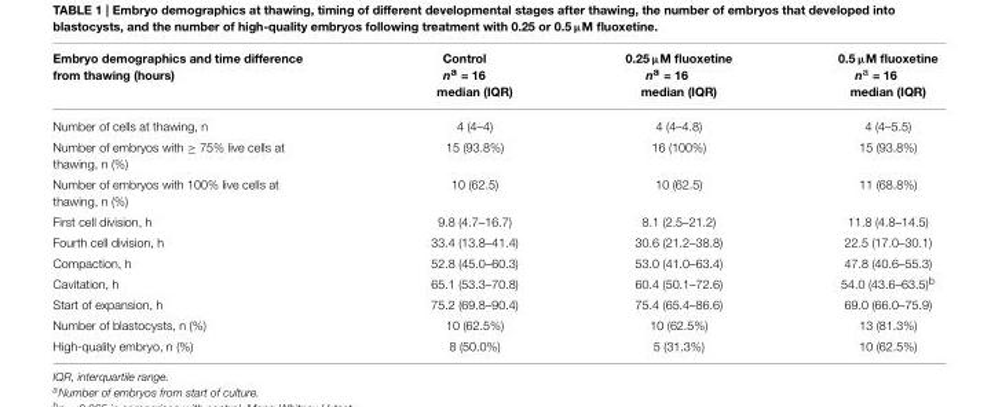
<table><thead><tr><td>Embryo demographics and time difference from thawing (hours)</td><td>Control n<sup>a</sup> = 16 median (IQR)</td><td>0.25 µM fluoxetine n<sup>a</sup> = 16 median (IQR)</td><td>0.5 µM fluoxetine n<sup>a</sup> = 16 median (IQR)</td></tr></thead><tbody><tr><td>Number of cells at thawing, n</td><td>4 (4–4)</td><td>4 (4–4.8)</td><td>4 (4–5.5)</td></tr><tr><td>Number of embryos with ≥ 75% live cells at thawing, n (%)</td><td>15 (93.8%)</td><td>16 (100%)</td><td>15 (93.8%)</td></tr><tr><td>Number of embryos with 100% live cells at thawing, n (%)</td><td>10 (62.5)</td><td>10 (62.5)</td><td>11 (68.8%)</td></tr><tr><td>First cell division, h</td><td>9.8 (4.7–16.7)</td><td>8.1 (2.5–21.2)</td><td>11.8 (4.8–14.5)</td></tr><tr><td>Fourth cell division, h</td><td>33.4 (13.8–41.4)</td><td>30.6 (21.2–38.8)</td><td>22.5 (17.0–30.1)</td></tr><tr><td>Compaction, h</td><td>52.8 (45.0–60.3)</td><td>53.0 (41.0–63.4)</td><td>47.8 (40.6–55.3)</td></tr><tr><td>Cavitation, h</td><td>65.1 (53.3–70.8)</td><td>60.4 (50.1–72.6)</td><td>54.0 (43.6–63.5)b</td></tr><tr><td>Start of expansion, h</td><td>75.2 (69.8–90.4)</td><td>75.4 (65.4–86.6)</td><td>69.0 (66.0–75.9)</td></tr><tr><td>Number of blastocysts, n (%)</td><td>10 (62.5%)</td><td>10 (62.5%)</td><td>13 (81.3%)</td></tr><tr><td>High-quality embryo, n (%)</td><td>8 (50.0%)</td><td>5 (31.3%)</td><td>10 (62.5%)</td></tr></tbody></table>